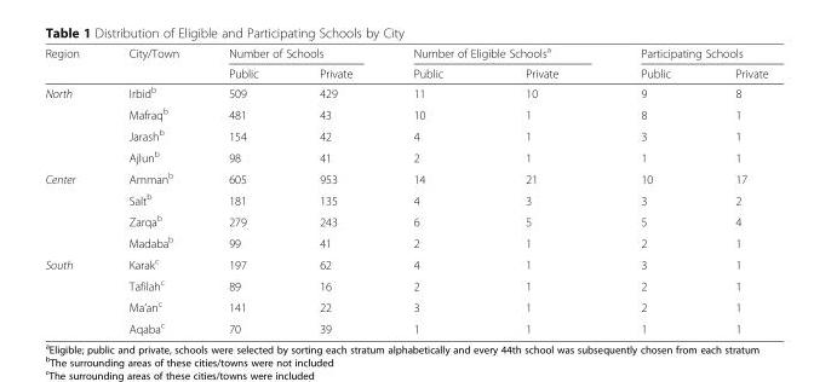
<table><thead><tr><td rowspan="2">Region</td><td rowspan="2">City/Town</td><td colspan="2">Number of Schools</td><td colspan="2">Number of Eligible Schools<sup>a</sup></td><td colspan="2">Participating Schools</td></tr><tr><td>Public</td><td>Private</td><td>Public</td><td>Private</td><td>Public</td><td>Private</td></tr></thead><tbody><tr><td rowspan="4">North</td><td>Irbid<sup>b</sup></td><td>509</td><td>429</td><td>11</td><td>10</td><td>9</td><td>8</td></tr><tr><td>Mafraq<sup>b</sup></td><td>481</td><td>43</td><td>10</td><td>1</td><td>8</td><td>1</td></tr><tr><td>Jarash<sup>b</sup></td><td>154</td><td>42</td><td>4</td><td>1</td><td>3</td><td>1</td></tr><tr><td>Ajlun<sup>b</sup></td><td>98</td><td>41</td><td>2</td><td>1</td><td>1</td><td>1</td></tr><tr><td rowspan="4">Center</td><td>Amman<sup>b</sup></td><td>605</td><td>953</td><td>14</td><td>21</td><td>10</td><td>17</td></tr><tr><td>Salt<sup>b</sup></td><td>181</td><td>135</td><td>4</td><td>3</td><td>3</td><td>2</td></tr><tr><td>Zarqa<sup>b</sup></td><td>279</td><td>243</td><td>6</td><td>5</td><td>5</td><td>4</td></tr><tr><td>Madaba<sup>b</sup></td><td>99</td><td>41</td><td>2</td><td>1</td><td>2</td><td>1</td></tr><tr><td rowspan="4">South</td><td>Karak<sup>c</sup></td><td>197</td><td>62</td><td>4</td><td>1</td><td>3</td><td>1</td></tr><tr><td>Tafilah<sup>c</sup></td><td>89</td><td>16</td><td>2</td><td>1</td><td>2</td><td>1</td></tr><tr><td>Ma’an<sup>c</sup></td><td>141</td><td>22</td><td>3</td><td>1</td><td>2</td><td>1</td></tr><tr><td>Aqaba<sup>c</sup></td><td>70</td><td>39</td><td>1</td><td>1</td><td>1</td><td>1</td></tr></tbody></table>